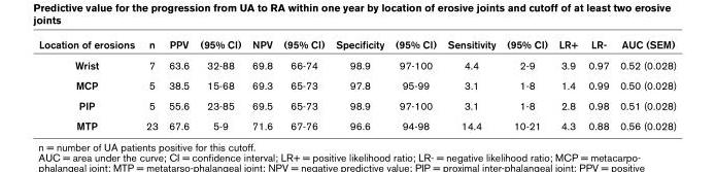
<table><thead><tr><td>Location of erosions</td><td>n</td><td>PPV</td><td>(95% CI)</td><td>NPV</td><td>(95% CI)</td><td>Specificity</td><td>(95% CI)</td><td>Sensitivity</td><td>(95% CI)</td><td>LR+</td><td>LR-</td><td>AUC (SEM)</td></tr></thead><tbody><tr><td>Wrist</td><td>7</td><td>63.6</td><td>32-88</td><td>69.8</td><td>66-74</td><td>98.9</td><td>97-100</td><td>4.4</td><td>2-9</td><td>3.9</td><td>0.97</td><td>0.52 (0.028)</td></tr><tr><td>MCP</td><td>5</td><td>38.5</td><td>15-68</td><td>69.3</td><td>65-73</td><td>97.8</td><td>95-99</td><td>3.1</td><td>1-8</td><td>1.4</td><td>0.99</td><td>0.50 (0.028)</td></tr><tr><td>PIP</td><td>5</td><td>55.6</td><td>23-85</td><td>69.5</td><td>65-73</td><td>98.9</td><td>97-100</td><td>3.1</td><td>1-8</td><td>2.8</td><td>0.98</td><td>0.51 (0.028)</td></tr><tr><td>MTP</td><td>23</td><td>67.6</td><td>5-9</td><td>71.6</td><td>67-76</td><td>96.6</td><td>94-98</td><td>14.4</td><td>10-21</td><td>4.3</td><td>0.88</td><td>0.56 (0.028)</td></tr></tbody></table>